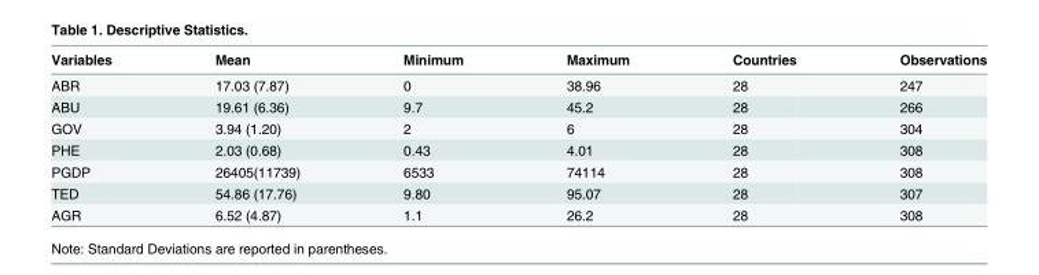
<table><thead><tr><td>Variables</td><td>Mean</td><td>Minimum</td><td>Maximum</td><td>Countries</td><td>Observations</td></tr></thead><tbody><tr><td>ABR</td><td>17.03 (7.87)</td><td>0</td><td>38.96</td><td>28</td><td>247</td></tr><tr><td>ABU</td><td>19.61 (6.36)</td><td>9.7</td><td>45.2</td><td>28</td><td>266</td></tr><tr><td>GOV</td><td>3.94 (1.20)</td><td>2</td><td>6</td><td>28</td><td>304</td></tr><tr><td>PHE</td><td>2.03 (0.68)</td><td>0.43</td><td>4.01</td><td>28</td><td>308</td></tr><tr><td>PGDP</td><td>26405(11739)</td><td>6533</td><td>74114</td><td>28</td><td>308</td></tr><tr><td>TED</td><td>54.86 (17.76)</td><td>9.80</td><td>95.07</td><td>28</td><td>307</td></tr><tr><td>AGR</td><td>6.52 (4.87)</td><td>1.1</td><td>26.2</td><td>28</td><td>308</td></tr></tbody></table>